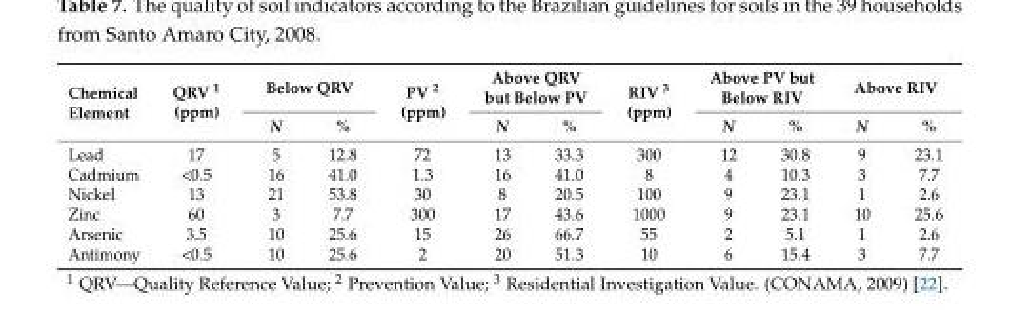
<table><thead><tr><td rowspan="2">Chemical Element</td><td rowspan="2">QRV <sup>1</sup> (ppm)</td><td colspan="2">Below QRV</td><td rowspan="2">PV <sup>2</sup> (ppm)</td><td colspan="2">Above QRV but Below PV</td><td rowspan="2">RIV <sup>3</sup> (ppm)</td><td colspan="2">Above PV but Below RIV</td><td colspan="2">Above RIV</td></tr><tr><td>N</td><td>%</td><td>N</td><td>%</td><td>N</td><td>%</td><td>N</td><td>%</td></tr></thead><tbody><tr><td>Lead</td><td>17</td><td>5</td><td>12.8</td><td>72</td><td>13</td><td>33.3</td><td>300</td><td>12</td><td>30.8</td><td>9</td><td>23.1</td></tr><tr><td>Cadmium</td><td>&lt;0.5</td><td>16</td><td>41.0</td><td>1.3</td><td>16</td><td>41.0</td><td>8</td><td>4</td><td>10.3</td><td>3</td><td>7.7</td></tr><tr><td>Nickel</td><td>13</td><td>21</td><td>53.8</td><td>30</td><td>8</td><td>20.5</td><td>100</td><td>9</td><td>23.1</td><td>1</td><td>2.6</td></tr><tr><td>Zinc</td><td>60</td><td>3</td><td>7.7</td><td>300</td><td>17</td><td>43.6</td><td>1000</td><td>9</td><td>23.1</td><td>10</td><td>25.6</td></tr><tr><td>Arsenic</td><td>3.5</td><td>10</td><td>25.6</td><td>15</td><td>26</td><td>66.7</td><td>55</td><td>2</td><td>5.1</td><td>1</td><td>2.6</td></tr><tr><td>Antimony</td><td>&lt;0.5</td><td>10</td><td>25.6</td><td>2</td><td>20</td><td>51.3</td><td>10</td><td>6</td><td>15.4</td><td>3</td><td>7.7</td></tr></tbody></table>